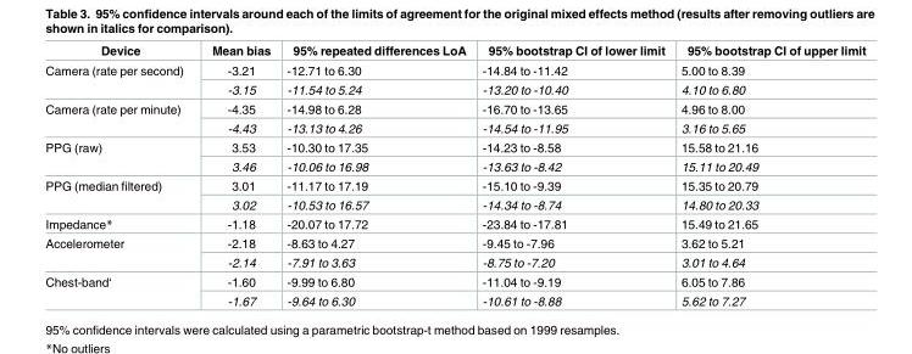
<table><thead><tr><td>Device</td><td>Mean bias</td><td>95% repeated differences LoA</td><td>95% bootstrap CI of lower limit</td><td>95% bootstrap CI of upper limit</td></tr></thead><tbody><tr><td rowspan="2">Camera (rate per second)</td><td>-3.21</td><td>-12.71 to 6.30</td><td>-14.84 to -11.42</td><td>5.00 to 8.39</td></tr><tr><td>-3.15</td><td>-11.54 to 5.24</td><td>-13.20 to -10.40</td><td>4.10 to 6.80</td></tr><tr><td rowspan="2">Camera (rate per minute)</td><td>-4.35</td><td>-14.98 to 6.28</td><td>-16.70 to -13.65</td><td>4.96 to 8.00</td></tr><tr><td>-4.43</td><td>-13.13 to 4.26</td><td>-14.54 to -11.95</td><td>3.16 to 5.65</td></tr><tr><td rowspan="2">PPG (raw)</td><td>3.53</td><td>-10.30 to 17.35</td><td>-14.23 to -8.58</td><td>15.58 to 21.16</td></tr><tr><td>3.46</td><td>-10.06 to 16.98</td><td>-13.63 to -8.42</td><td>15.11 to 20.49</td></tr><tr><td rowspan="2">PPG (median filtered)</td><td>3.01</td><td>-11.17 to 17.19</td><td>-15.10 to -9.39</td><td>15.35 to 20.79</td></tr><tr><td>3.02</td><td>-10.53 to 16.57</td><td>-14.34 to -8.74</td><td>14.80 to 20.33</td></tr><tr><td>Impedance*</td><td>-1.18</td><td>-20.07 to 17.72</td><td>-23.84 to -17.81</td><td>15.49 to 21.65</td></tr><tr><td rowspan="2">Accelerometer</td><td>-2.18</td><td>-8.63 to 4.27</td><td>-9.45 to -7.96</td><td>3.62 to 5.21</td></tr><tr><td>-2.14</td><td>-7.91 to 3.63</td><td>-8.75 to -7.20</td><td>3.01 to 4.64</td></tr><tr><td rowspan="2">Chest-band‘</td><td>-1.60</td><td>-9.99 to 6.80</td><td>-11.04 to -9.19</td><td>6.05 to 7.86</td></tr><tr><td>-1.67</td><td>-9.64 to 6.30</td><td>-10.61 to -8.88</td><td>5.62 to 7.27</td></tr></tbody></table>